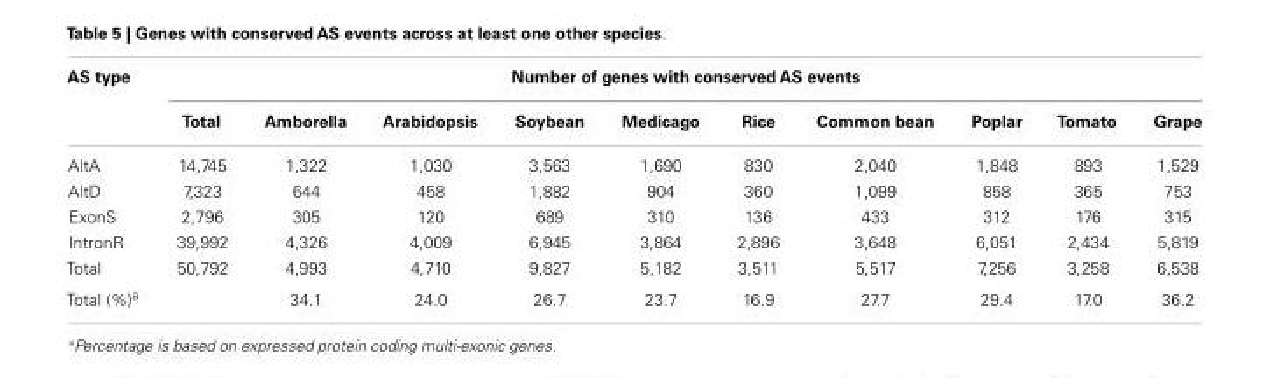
<table><thead><tr><td rowspan="2">AS type</td><td colspan="10">Number of genes with conserved AS events</td></tr><tr><td>Total</td><td>Amborella</td><td>Arabidopsis</td><td>Soybean</td><td>Medicago</td><td>Rice</td><td>Common bean</td><td>Poplar</td><td>Tomato</td><td>Grape</td></tr></thead><tbody><tr><td>AltA</td><td>14,745</td><td>1,322</td><td>1,030</td><td>3,563</td><td>1,690</td><td>830</td><td>2,040</td><td>1,848</td><td>893</td><td>1,529</td></tr><tr><td>AltD</td><td>7,323</td><td>644</td><td>458</td><td>1,882</td><td>904</td><td>360</td><td>1,099</td><td>858</td><td>365</td><td>753</td></tr><tr><td>ExonS</td><td>2,796</td><td>305</td><td>120</td><td>689</td><td>310</td><td>136</td><td>433</td><td>312</td><td>176</td><td>315</td></tr><tr><td>IntronR</td><td>39,992</td><td>4,326</td><td>4,009</td><td>6,945</td><td>3,864</td><td>2,896</td><td>3,648</td><td>6,051</td><td>2,434</td><td>5,819</td></tr><tr><td>Total</td><td>50,792</td><td>4,993</td><td>4,710</td><td>9,827</td><td>5,182</td><td>3,511</td><td>5,517</td><td>7,256</td><td>3,258</td><td>6,538</td></tr><tr><td>Total (%)<sup>a</sup></td><td></td><td>34.1</td><td>24.0</td><td>26.7</td><td>23.7</td><td>16.9</td><td>27.7</td><td>29.4</td><td>17.0</td><td>36.2</td></tr></tbody></table>